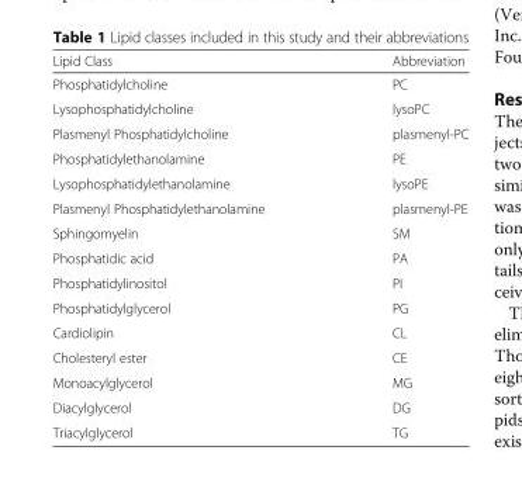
<table><thead><tr><td>Lipid Class</td><td>Abbreviation</td></tr></thead><tbody><tr><td>Phosphatidylcholine</td><td>PC</td></tr><tr><td>Lysophosphatidylcholine</td><td>lysoPC</td></tr><tr><td>Plasmenyl Phosphatidylcholine</td><td>plasmenyl-PC</td></tr><tr><td>Phosphatidylethanolamine</td><td>PE</td></tr><tr><td>Lysophosphatidylethanolamine</td><td>lysoPE</td></tr><tr><td>Plasmenyl Phosphatidylethanolamine</td><td>plasmenyl-PE</td></tr><tr><td>Sphingomyelin</td><td>SM</td></tr><tr><td>Phosphatidic acid</td><td>PA</td></tr><tr><td>Phosphatidylinositol</td><td>PI</td></tr><tr><td>Phosphatidylglycerol</td><td>PG</td></tr><tr><td>Cardiolipin</td><td>CL</td></tr><tr><td>Cholesteryl ester</td><td>CE</td></tr><tr><td>Monoacylglycerol</td><td>MG</td></tr><tr><td>Diacylglycerol</td><td>DG</td></tr><tr><td>Triacylglycerol</td><td>TG</td></tr></tbody></table>